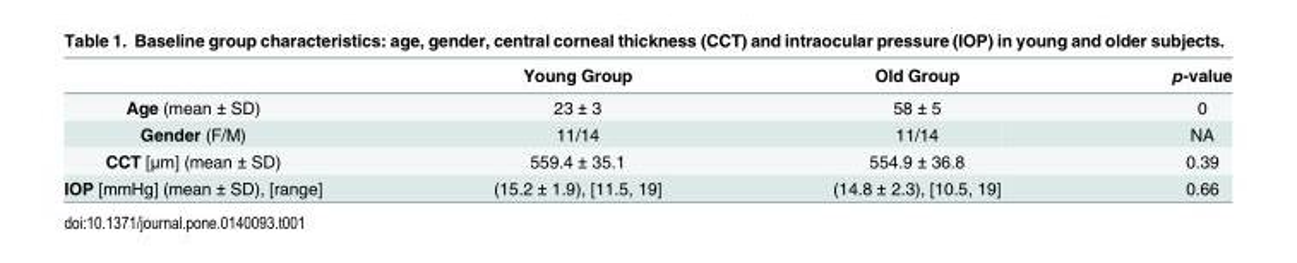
<table><thead><tr><td></td><td>Young Group</td><td>Old Group</td><td>p-value</td></tr></thead><tbody><tr><td>Age (mean ± SD)</td><td>23 ± 3</td><td>58 ± 5</td><td>0</td></tr><tr><td>Gender (F/M)</td><td>11/14</td><td>11/14</td><td>NA</td></tr><tr><td>CCT [μm] (mean ± SD)</td><td>559.4 ± 35.1</td><td>554.9 ± 36.8</td><td>0.39</td></tr><tr><td>IOP [mmHg] (mean ± SD), [range]</td><td>(15.2 ± 1.9), [11.5, 19]</td><td>(14.8 ± 2.3), [10.5, 19]</td><td>0.66</td></tr></tbody></table>